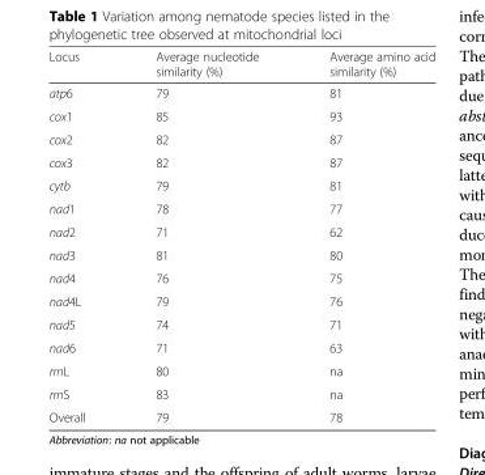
<table><thead><tr><td>Locus</td><td>Average nucleotide similarity (%)</td><td>Average amino acid similarity (%)</td></tr></thead><tbody><tr><td>atp6</td><td>79</td><td>81</td></tr><tr><td>cox1</td><td>85</td><td>93</td></tr><tr><td>cox2</td><td>82</td><td>87</td></tr><tr><td>cox3</td><td>82</td><td>87</td></tr><tr><td>cytb</td><td>79</td><td>81</td></tr><tr><td>nad1</td><td>78</td><td>77</td></tr><tr><td>nad2</td><td>71</td><td>62</td></tr><tr><td>nad3</td><td>81</td><td>80</td></tr><tr><td>nad4</td><td>76</td><td>75</td></tr><tr><td>nad4L</td><td>79</td><td>76</td></tr><tr><td>nad5</td><td>74</td><td>71</td></tr><tr><td>nad6</td><td>71</td><td>63</td></tr><tr><td>rrnL</td><td>80</td><td>na</td></tr><tr><td>rrnS</td><td>83</td><td>na</td></tr><tr><td>Overall</td><td>79</td><td>78</td></tr></tbody></table>